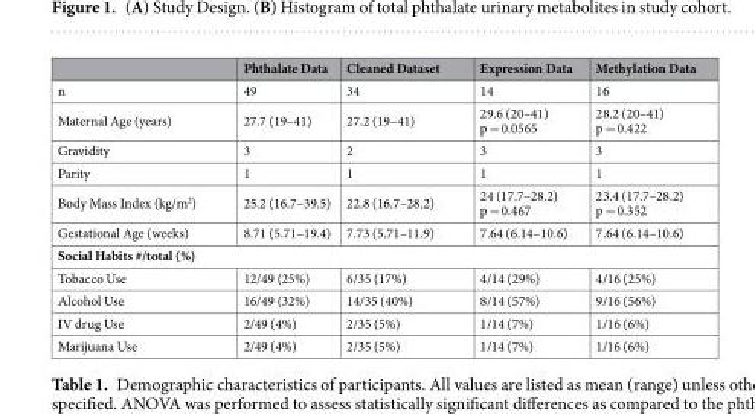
<table><thead><tr><td></td><td>Phthalate Data</td><td>Cleaned Dataset</td><td>Expression Data</td><td>Methylation Data</td></tr></thead><tbody><tr><td>n</td><td>49</td><td>34</td><td>14</td><td>16</td></tr><tr><td>Maternal Age (years)</td><td>27.7 (19–41)</td><td>27.2 (19–41)</td><td>29.6 (20–41) p = 0.0565</td><td>28.2 (20–41) p = 0.422</td></tr><tr><td>Gravidity</td><td>3</td><td>2</td><td>3</td><td>3</td></tr><tr><td>Parity</td><td>1</td><td>1</td><td>1</td><td>1</td></tr><tr><td>Body Mass Index (kg/m<sup>2</sup>)</td><td>25.2 (16.7–39.5)</td><td>22.8 (16.7–28.2)</td><td>24 (17.7–28.2) p = 0.467</td><td>23.4 (17.7–28.2) p = 0.352</td></tr><tr><td>Gestational Age (weeks)</td><td>8.71 (5.71–19.4)</td><td>7.73 (5.71–11.9)</td><td>7.64 (6.14–10.6)</td><td>7.64 (6.14–10.6)</td></tr><tr><td colspan="5">Social Habits #/total (%)</td></tr><tr><td>Tobacco Use</td><td>12/49 (25%)</td><td>6/35 (17%)</td><td>4/14 (29%)</td><td>4/16 (25%)</td></tr><tr><td>Alcohol Use</td><td>16/49 (32%)</td><td>14/35 (40%)</td><td>8/14 (57%)</td><td>9/16 (56%)</td></tr><tr><td>IV drug Use</td><td>2/49 (4%)</td><td>2/35 (5%)</td><td>1/14 (7%)</td><td>1/16 (6%)</td></tr><tr><td>Marijuana Use</td><td>2/49 (4%)</td><td>2/35 (5%)</td><td>1/14 (7%)</td><td>1/16 (6%)</td></tr></tbody></table>